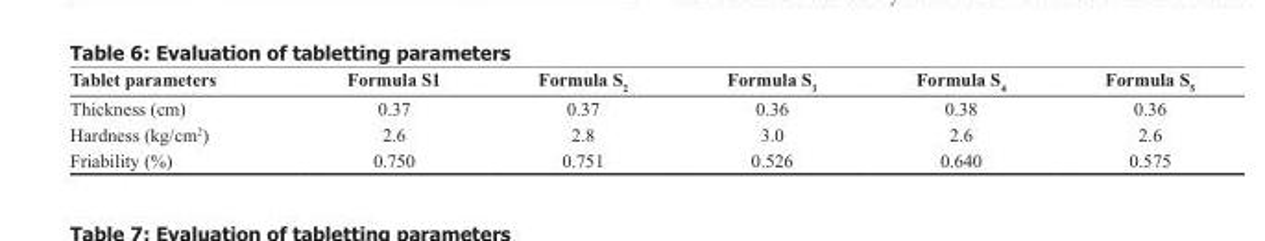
<table><thead><tr><td>Tablet parameters</td><td>Formula S<sub>1</sub></td><td>Formula S<sub>2</sub></td><td>Formula S<sub>3</sub></td><td>Formula S<sub>4</sub></td><td>Formula S<sub>5</sub></td></tr></thead><tbody><tr><td>Thickness (cm)</td><td>0.37</td><td>0.37</td><td>0.36</td><td>0.38</td><td>0.36</td></tr><tr><td>Hardness (kg/cm<sup>2</sup>)</td><td>2.6</td><td>2.8</td><td>3.0</td><td>2.6</td><td>2.6</td></tr><tr><td>Friability (%)</td><td>0.750</td><td>0.751</td><td>0.526</td><td>0.640</td><td>0.575</td></tr></tbody></table>